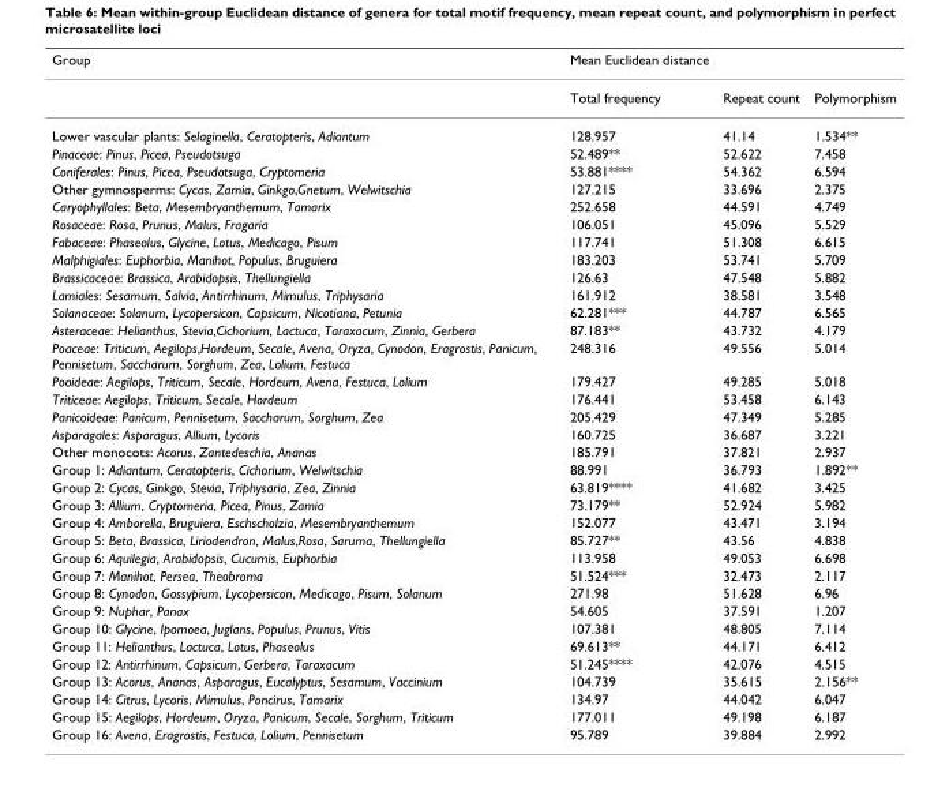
<table><thead><tr><td>Group</td><td>Mean Euclidean distance</td><td></td><td></td></tr></thead><tbody><tr><td></td><td>Total frequency</td><td>Repeat count</td><td>Polymorphism</td></tr><tr><td>Lower vascular plants: Selaginella, Ceratopteris, Adiantum</td><td>128.957</td><td>41.14</td><td>1.534**</td></tr><tr><td>Pinaceae: Pinus, Picea, Pseudotsuga</td><td>52.489**</td><td>52.622</td><td>7.458</td></tr><tr><td>Coniferales: Pinus, Picea, Pseudotsuga, Cryptomeria</td><td>53.881****</td><td>54.362</td><td>6.594</td></tr><tr><td>Other gymnosperms: Cycas, Zamia, Ginkgo,Gnetum, Welwitschia</td><td>127.215</td><td>33.696</td><td>2.375</td></tr><tr><td>Caryophyllales: Beta, Mesembryanthemum, Tamarix</td><td>252.658</td><td>44.591</td><td>4.749</td></tr><tr><td>Rosaceae: Rosa, Prunus, Malus, Fragaria</td><td>106.051</td><td>45.096</td><td>5.529</td></tr><tr><td>Fabaceae: Phaseolus, Glycine, Lotus, Medicago, Pisum</td><td>117.741</td><td>51.308</td><td>6.615</td></tr><tr><td>Malphigiales: Euphorbia, Manihot, Populus, Bruguiera</td><td>183.203</td><td>53.741</td><td>5.709</td></tr><tr><td>Brassicaceae: Brassica, Arabidopsis, Thellungiella</td><td>126.63</td><td>47.548</td><td>5.882</td></tr><tr><td>Lamiales: Sesamum, Salvia, Antirrhinum, Mimulus, Triphysaria</td><td>161.912</td><td>38.581</td><td>3.548</td></tr><tr><td>Solanaceae: Solanum, Lycopersicon, Capsicum, Nicotiana, Petunia</td><td>62.281***</td><td>44.787</td><td>6.565</td></tr><tr><td>Asteraceae: Helianthus, Stevia,Cichorium, Lactuca, Taraxacum, Zinnia, Gerbera</td><td>87.183**</td><td>43.732</td><td>4.179</td></tr><tr><td>Poaceae: Triticum, Aegilops,Hordeum, Secale, Avena, Oryza, Cynodon, Eragrostis, Panicum, Pennisetum, Saccharum, Sorghum, Zea, Lolium, Festuca</td><td>248.316</td><td>49.556</td><td>5.014</td></tr><tr><td>Pooideae: Aegilops, Triticum, Secale, Hordeum, Avena, Festuca, Lolium</td><td>179.427</td><td>49.285</td><td>5.018</td></tr><tr><td>Triticeae: Aegilops, Triticum, Secale, Hordeum</td><td>176.441</td><td>53.458</td><td>6.143</td></tr><tr><td>Panicoideae: Panicum, Pennisetum, Saccharum, Sorghum, Zea</td><td>205.429</td><td>47.349</td><td>5.285</td></tr><tr><td>Asparagales: Asparagus, Allium, Lycoris</td><td>160.725</td><td>36.687</td><td>3.221</td></tr><tr><td>Other monocots: Acorus, Zantedeschia, Ananas</td><td>185.791</td><td>37.821</td><td>2.937</td></tr><tr><td>Group 1: Adiantum, Ceratopteris, Cichorium, Welwitschia</td><td>88.991</td><td>36.793</td><td>1.892**</td></tr><tr><td>Group 2: Cycas, Ginkgo, Stevia, Triphysaria, Zea, Zinnia</td><td>63.819****</td><td>41.682</td><td>3.425</td></tr><tr><td>Group 3: Allium, Cryptomeria, Picea, Pinus, Zamia</td><td>73.179**</td><td>52.924</td><td>5.982</td></tr><tr><td>Group 4: Amborella, Bruguiera, Eschscholzia, Mesembryanthemum</td><td>152.077</td><td>43.471</td><td>3.194</td></tr><tr><td>Group 5: Beta, Brassica, Liriodendron, Malus,Rosa, Saruma, Thellungiella</td><td>85.727**</td><td>43.56</td><td>4.838</td></tr><tr><td>Group 6: Aquilegia, Arabidopsis, Cucumis, Euphorbia</td><td>113.958</td><td>49.053</td><td>6.698</td></tr><tr><td>Group 7: Manihot, Persea, Theobroma</td><td>51.524***</td><td>32.473</td><td>2.117</td></tr><tr><td>Group 8: Cynodon, Gossypium, Lycopersicon, Medicago, Pisum, Solanum</td><td>271.98</td><td>51.628</td><td>6.96</td></tr><tr><td>Group 9: Nuphar, Panax</td><td>54.605</td><td>37.591</td><td>1.207</td></tr><tr><td>Group 10: Glycine, Ipomoea, Juglans, Populus, Prunus, Vitis</td><td>107.381</td><td>48.805</td><td>7.114</td></tr><tr><td>Group 11: Helianthus, Lactuca, Lotus, Phaseolus</td><td>69.613**</td><td>44.171</td><td>6.412</td></tr><tr><td>Group 12: Antirrhinum, Capsicum, Gerbera, Taraxacum</td><td>51.245****</td><td>42.076</td><td>4.515</td></tr><tr><td>Group 13: Acorus, Ananas, Asparagus, Eucalyptus, Sesamum, Vaccinium</td><td>104.739</td><td>35.615</td><td>2.156**</td></tr><tr><td>Group 14: Citrus, Lycoris, Mimulus, Poncirus, Tamarix</td><td>134.97</td><td>44.042</td><td>6.047</td></tr><tr><td>Group 15: Aegilops, Hordeum, Oryza, Panicum, Secale, Sorghum, Triticum</td><td>177.011</td><td>49.198</td><td>6.187</td></tr><tr><td>Group 16: Avena, Eragrostis, Festuca, Lolium, Pennisetum</td><td>95.789</td><td>39.884</td><td>2.992</td></tr></tbody></table>